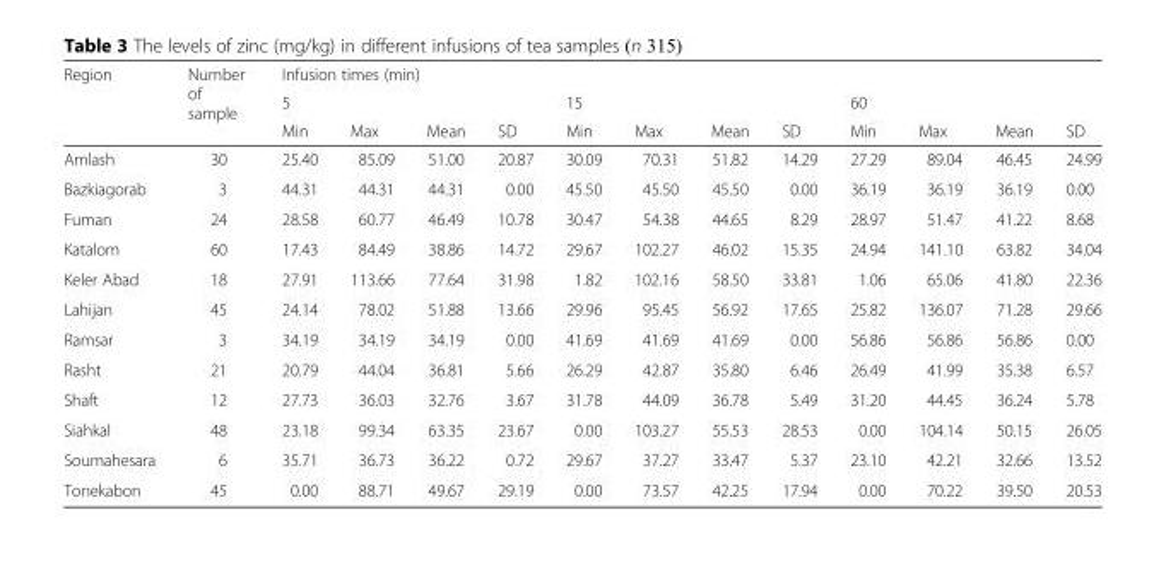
<table><thead><tr><td rowspan="3">Region</td><td rowspan="3">Number of sample</td><td colspan="12">Infusion times (min)</td></tr><tr><td colspan="4">5</td><td colspan="4">15</td><td colspan="4">60</td></tr><tr><td>Min</td><td>Max</td><td>Mean</td><td>SD</td><td>Min</td><td>Max</td><td>Mean</td><td>SD</td><td>Min</td><td>Max</td><td>Mean</td><td>SD</td></tr></thead><tbody><tr><td>Amlash</td><td>30</td><td>25.40</td><td>85.09</td><td>51.00</td><td>20.87</td><td>30.09</td><td>70.31</td><td>51.82</td><td>14.29</td><td>27.29</td><td>89.04</td><td>46.45</td><td>24.99</td></tr><tr><td>Bazkiagorab</td><td>3</td><td>44.31</td><td>44.31</td><td>44.31</td><td>0.00</td><td>45.50</td><td>45.50</td><td>45.50</td><td>0.00</td><td>36.19</td><td>36.19</td><td>36.19</td><td>0.00</td></tr><tr><td>Fuman</td><td>24</td><td>28.58</td><td>60.77</td><td>46.49</td><td>10.78</td><td>30.47</td><td>54.38</td><td>44.65</td><td>8.29</td><td>28.97</td><td>51.47</td><td>41.22</td><td>8.68</td></tr><tr><td>Katalom</td><td>60</td><td>17.43</td><td>84.49</td><td>38.86</td><td>14.72</td><td>29.67</td><td>102.27</td><td>46.02</td><td>15.35</td><td>24.94</td><td>141.10</td><td>63.82</td><td>34.04</td></tr><tr><td>Keler Abad</td><td>18</td><td>27.91</td><td>113.66</td><td>77.64</td><td>31.98</td><td>1.82</td><td>102.16</td><td>58.50</td><td>33.81</td><td>1.06</td><td>65.06</td><td>41.80</td><td>22.36</td></tr><tr><td>Lahijan</td><td>45</td><td>24.14</td><td>78.02</td><td>51.88</td><td>13.66</td><td>29.96</td><td>95.45</td><td>56.92</td><td>17.65</td><td>25.82</td><td>136.07</td><td>71.28</td><td>29.66</td></tr><tr><td>Ramsar</td><td>3</td><td>34.19</td><td>34.19</td><td>34.19</td><td>0.00</td><td>41.69</td><td>41.69</td><td>41.69</td><td>0.00</td><td>56.86</td><td>56.86</td><td>56.86</td><td>0.00</td></tr><tr><td>Rasht</td><td>21</td><td>20.79</td><td>44.04</td><td>36.81</td><td>5.66</td><td>26.29</td><td>42.87</td><td>35.80</td><td>6.46</td><td>26.49</td><td>41.99</td><td>35.38</td><td>6.57</td></tr><tr><td>Shaft</td><td>12</td><td>27.73</td><td>36.03</td><td>32.76</td><td>3.67</td><td>31.78</td><td>44.09</td><td>36.78</td><td>5.49</td><td>31.20</td><td>44.45</td><td>36.24</td><td>5.78</td></tr><tr><td>Siahkal</td><td>48</td><td>23.18</td><td>99.34</td><td>63.35</td><td>23.67</td><td>0.00</td><td>103.27</td><td>55.53</td><td>28.53</td><td>0.00</td><td>104.14</td><td>50.15</td><td>26.05</td></tr><tr><td>Soumahesara</td><td>6</td><td>35.71</td><td>36.73</td><td>36.22</td><td>0.72</td><td>29.67</td><td>37.27</td><td>33.47</td><td>5.37</td><td>23.10</td><td>42.21</td><td>32.66</td><td>13.52</td></tr><tr><td>Tonekabon</td><td>45</td><td>0.00</td><td>88.71</td><td>49.67</td><td>29.19</td><td>0.00</td><td>73.57</td><td>42.25</td><td>17.94</td><td>0.00</td><td>70.22</td><td>39.50</td><td>20.53</td></tr></tbody></table>